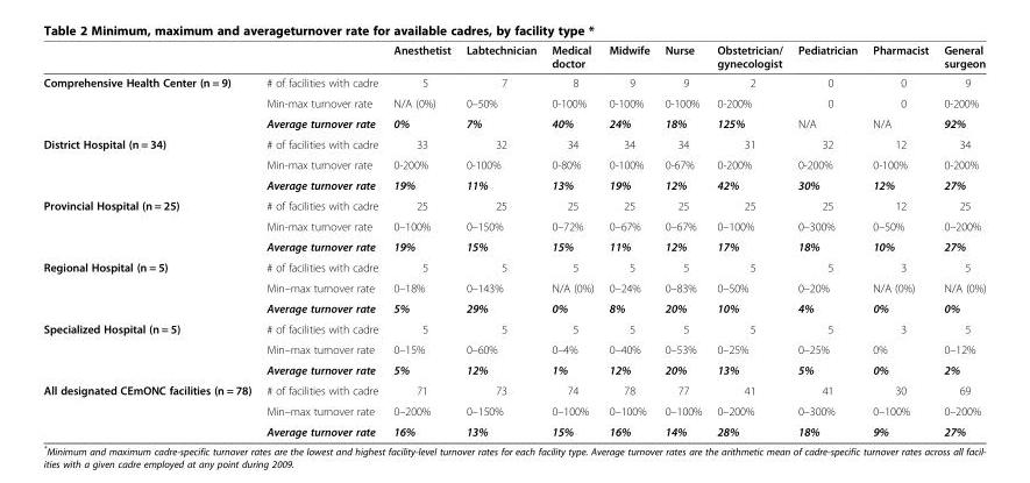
<table><thead><tr><td></td><td></td><td>Anesthetist</td><td>Labtechnician</td><td>Medical doctor</td><td>Midwife</td><td>Nurse</td><td>Obstetrician/ gynecologist</td><td>Pediatrician</td><td>Pharmacist</td><td>General surgeon</td></tr></thead><tbody><tr><td rowspan="3">Comprehensive Health Center (n = 9)</td><td># of facilities with cadre</td><td>5</td><td>7</td><td>8</td><td>9</td><td>9</td><td>2</td><td>0</td><td>0</td><td>9</td></tr><tr><td>Min-max turnover rate</td><td>N/A (0%)</td><td>0–50%</td><td>0-100%</td><td>0-100%</td><td>0-100%</td><td>0-200%</td><td>0</td><td>0</td><td>0-200%</td></tr><tr><td>Average turnover rate</td><td>0%</td><td>7%</td><td>40%</td><td>24%</td><td>18%</td><td>125%</td><td>N/A</td><td>N/A</td><td>92%</td></tr><tr><td rowspan="3">District Hospital (n = 34)</td><td># of facilities with cadre</td><td>33</td><td>32</td><td>34</td><td>34</td><td>34</td><td>31</td><td>32</td><td>12</td><td>34</td></tr><tr><td>Min-max turnover rate</td><td>0-200%</td><td>0-100%</td><td>0-80%</td><td>0-100%</td><td>0-67%</td><td>0-200%</td><td>0-200%</td><td>0-100%</td><td>0-200%</td></tr><tr><td>Average turnover rate</td><td>19%</td><td>11%</td><td>13%</td><td>19%</td><td>12%</td><td>42%</td><td>30%</td><td>12%</td><td>27%</td></tr><tr><td rowspan="3">Provincial Hospital (n = 25)</td><td># of facilities with cadre</td><td>25</td><td>25</td><td>25</td><td>25</td><td>25</td><td>25</td><td>25</td><td>12</td><td>25</td></tr><tr><td>Min-max turnover rate</td><td>0–100%</td><td>0–150%</td><td>0–72%</td><td>0–67%</td><td>0–67%</td><td>0–100%</td><td>0–300%</td><td>0–50%</td><td>0–200%</td></tr><tr><td>Average turnover rate</td><td>19%</td><td>15%</td><td>15%</td><td>11%</td><td>12%</td><td>17%</td><td>18%</td><td>10%</td><td>27%</td></tr><tr><td rowspan="3">Regional Hospital (n = 5)</td><td># of facilities with cadre</td><td>5</td><td>5</td><td>5</td><td>5</td><td>5</td><td>5</td><td>5</td><td>3</td><td>5</td></tr><tr><td>Min–max turnover rate</td><td>0–18%</td><td>0–143%</td><td>N/A (0%)</td><td>0–24%</td><td>0–83%</td><td>0–50%</td><td>0–20%</td><td>N/A (0%)</td><td>N/A (0%)</td></tr><tr><td>Average turnover rate</td><td>5%</td><td>29%</td><td>0%</td><td>8%</td><td>20%</td><td>10%</td><td>4%</td><td>0%</td><td>0%</td></tr><tr><td rowspan="3">Specialized Hospital (n = 5)</td><td># of facilities with cadre</td><td>5</td><td>5</td><td>5</td><td>5</td><td>5</td><td>5</td><td>5</td><td>3</td><td>5</td></tr><tr><td>Min–max turnover rate</td><td>0–15%</td><td>0–60%</td><td>0–4%</td><td>0–40%</td><td>0–53%</td><td>0–25%</td><td>0–25%</td><td>0%</td><td>0–12%</td></tr><tr><td>Average turnover rate</td><td>5%</td><td>12%</td><td>1%</td><td>12%</td><td>20%</td><td>13%</td><td>5%</td><td>0%</td><td>2%</td></tr><tr><td rowspan="3">All designated CEmONC facilities (n = 78)</td><td># of facilities with cadre</td><td>71</td><td>73</td><td>74</td><td>78</td><td>77</td><td>41</td><td>41</td><td>30</td><td>69</td></tr><tr><td>Min–max turnover rate</td><td>0–200%</td><td>0–150%</td><td>0–100%</td><td>0–100%</td><td>0–100%</td><td>0–200%</td><td>0–300%</td><td>0–100%</td><td>0–200%</td></tr><tr><td>Average turnover rate</td><td>16%</td><td>13%</td><td>15%</td><td>16%</td><td>14%</td><td>28%</td><td>18%</td><td>9%</td><td>27%</td></tr></tbody></table>